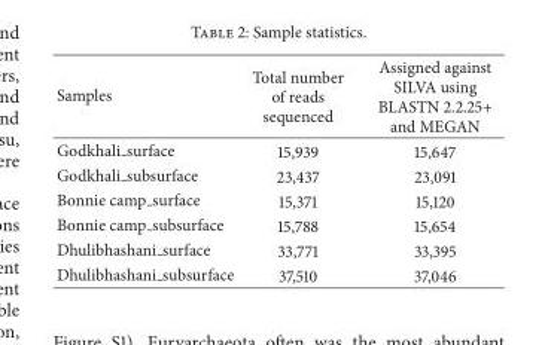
<table><thead><tr><td>Samples</td><td>Total number of reads sequenced</td><td>Assigned against SILVA using BLASTN 2.2.25+ and MEGAN</td></tr></thead><tbody><tr><td>Godkhali surface</td><td>15,939</td><td>15,647</td></tr><tr><td>Godkhali subsurface</td><td>23,437</td><td>23,091</td></tr><tr><td>Bonnie camp surface</td><td>15,371</td><td>15,120</td></tr><tr><td>Bonnie camp subsurface</td><td>15,788</td><td>15,654</td></tr><tr><td>Dhulibhashani surface</td><td>33,771</td><td>33,395</td></tr><tr><td>Dhulibhashani subsurface</td><td>37,510</td><td>37,046</td></tr></tbody></table>